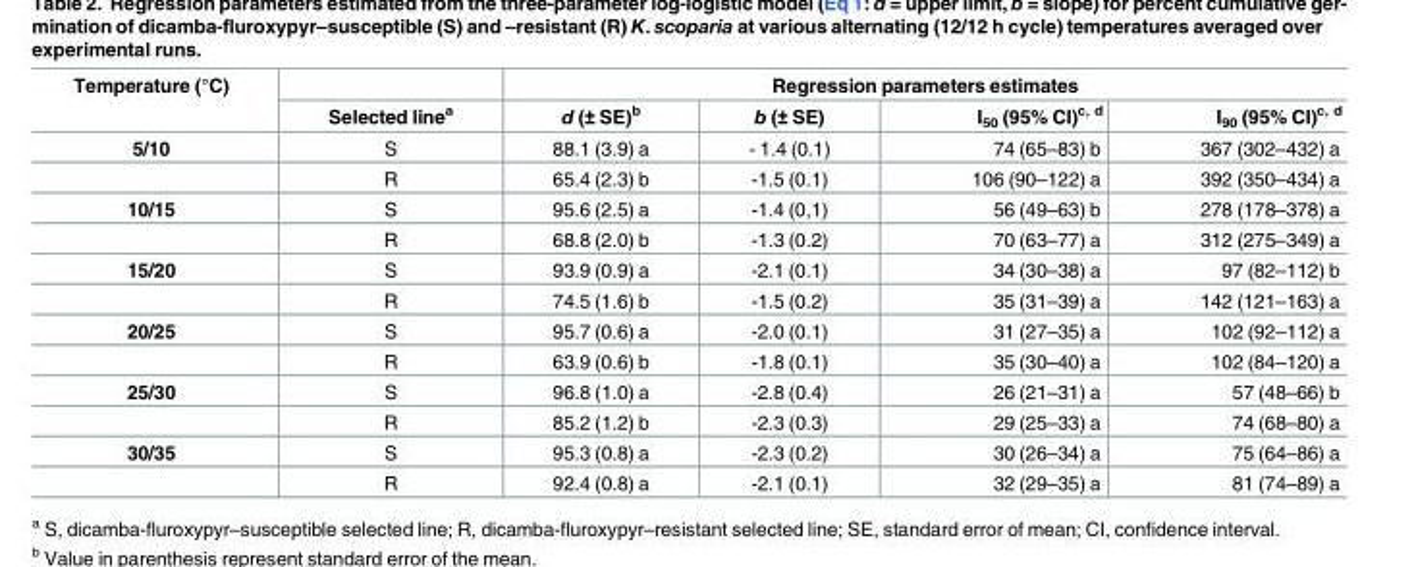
<table><thead><tr><td rowspan="2">Temperature (°C)</td><td rowspan="2">Selected line<sup>a</sup></td><td colspan="4">Regression parameters estimates</td></tr><tr><td>d (± SE)<sup>b</sup></td><td>b (± SE)</td><td>I<sub>50</sub> (95% CI)<sup>c, d</sup></td><td>I<sub>90</sub> (95% CI)<sup>c, d</sup></td></tr></thead><tbody><tr><td rowspan="2">5/10</td><td>S</td><td>88.1 (3.9) a</td><td>- 1.4 (0.1)</td><td>74 (65–83) b</td><td>367 (302–432) a</td></tr><tr><td>R</td><td>65.4 (2.3) b</td><td>-1.5 (0.1)</td><td>106 (90–122) a</td><td>392 (350–434) a</td></tr><tr><td rowspan="2">10/15</td><td>S</td><td>95.6 (2.5) a</td><td>-1.4 (0,1)</td><td>56 (49–63) b</td><td>278 (178–378) a</td></tr><tr><td>R</td><td>68.8 (2.0) b</td><td>-1.3 (0.2)</td><td>70 (63–77) a</td><td>312 (275–349) a</td></tr><tr><td rowspan="2">15/20</td><td>S</td><td>93.9 (0.9) a</td><td>-2.1 (0.1)</td><td>34 (30–38) a</td><td>97 (82–112) b</td></tr><tr><td>R</td><td>74.5 (1.6) b</td><td>-1.5 (0.2)</td><td>35 (31–39) a</td><td>142 (121–163) a</td></tr><tr><td rowspan="2">20/25</td><td>S</td><td>95.7 (0.6) a</td><td>-2.0 (0.1)</td><td>31 (27–35) a</td><td>102 (92–112) a</td></tr><tr><td>R</td><td>63.9 (0.6) b</td><td>-1.8 (0.1)</td><td>35 (30–40) a</td><td>102 (84–120) a</td></tr><tr><td rowspan="2">25/30</td><td>S</td><td>96.8 (1.0) a</td><td>-2.8 (0.4)</td><td>26 (21–31) a</td><td>57 (48–66) b</td></tr><tr><td>R</td><td>85.2 (1.2) b</td><td>-2.3 (0.3)</td><td>29 (25–33) a</td><td>74 (68–80) a</td></tr><tr><td rowspan="2">30/35</td><td>S</td><td>95.3 (0.8) a</td><td>-2.3 (0.2)</td><td>30 (26–34) a</td><td>75 (64–86) a</td></tr><tr><td>R</td><td>92.4 (0.8) a</td><td>-2.1 (0.1)</td><td>32 (29–35) a</td><td>81 (74–89) a</td></tr></tbody></table>